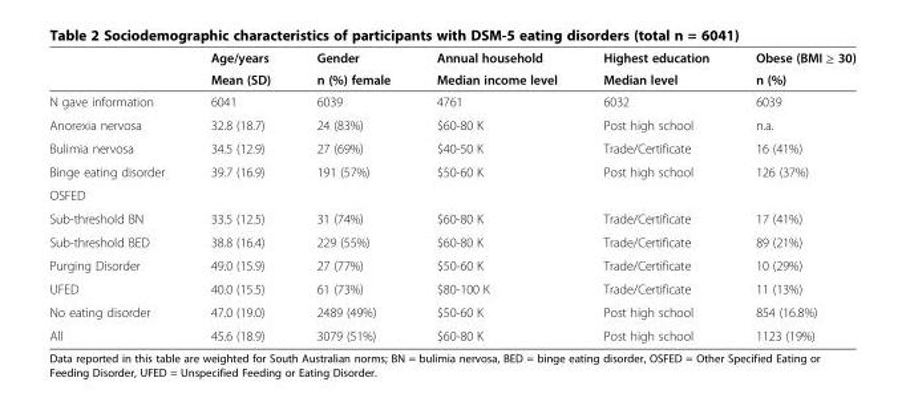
<table><thead><tr><td rowspan="2"></td><td rowspan="2">Age/years Mean (SD)</td><td rowspan="2">Gender n (%) female</td><td rowspan="2">Annual household Median income level</td><td rowspan="2">Highest education Median level</td><td rowspan="2">Obese (BMI ≥ 30) n (%)</td></tr><tr></tr></thead><tbody><tr><td>N gave information</td><td>6041</td><td>6039</td><td>4761</td><td>6032</td><td>6039</td></tr><tr><td>Anorexia nervosa</td><td>32.8 (18.7)</td><td>24 (83%)</td><td>$60-80 K</td><td>Post high school</td><td>n.a.</td></tr><tr><td>Bulimia nervosa</td><td>34.5 (12.9)</td><td>27 (69%)</td><td>$40-50 K</td><td>Trade/Certificate</td><td>16 (41%)</td></tr><tr><td>Binge eating disorder</td><td>39.7 (16.9)</td><td>191 (57%)</td><td>$50-60 K</td><td>Post high school</td><td>126 (37%)</td></tr><tr><td colspan="6">OSFED</td></tr><tr><td>Sub-threshold BN</td><td>33.5 (12.5)</td><td>31 (74%)</td><td>$60-80 K</td><td>Trade/Certificate</td><td>17 (41%)</td></tr><tr><td>Sub-threshold BED</td><td>38.8 (16.4)</td><td>229 (55%)</td><td>$60-80 K</td><td>Trade/Certificate</td><td>89 (21%)</td></tr><tr><td>Purging Disorder</td><td>49.0 (15.9)</td><td>27 (77%)</td><td>$50-60 K</td><td>Trade/Certificate</td><td>10 (29%)</td></tr><tr><td>UFED</td><td>40.0 (15.5)</td><td>61 (73%)</td><td>$80-100 K</td><td>Trade/Certificate</td><td>11 (13%)</td></tr><tr><td>No eating disorder</td><td>47.0 (19.0)</td><td>2489 (49%)</td><td>$50-60 K</td><td>Post high school</td><td>854 (16.8%)</td></tr><tr><td>All</td><td>45.6 (18.9)</td><td>3079 (51%)</td><td>$60-80 K</td><td>Post high school</td><td>1123 (19%)</td></tr></tbody></table>